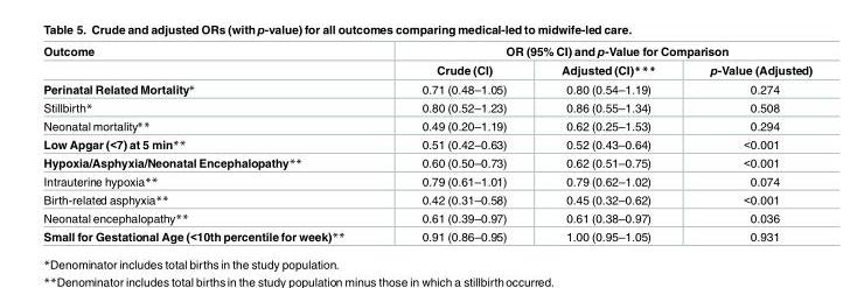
<table><thead><tr><td rowspan="2">Outcome</td><td colspan="3">OR (95% CI) and p-Value for Comparison</td></tr><tr><td>Crude (CI)</td><td>Adjusted (CI)***</td><td>p-Value (Adjusted)</td></tr></thead><tbody><tr><td>Perinatal Related Mortality*</td><td>0.71 (0.48–1.05)</td><td>0.80 (0.54–1.19)</td><td>0.274</td></tr><tr><td>Stillbirth*</td><td>0.80 (0.52–1.23)</td><td>0.86 (0.55–1.34)</td><td>0.508</td></tr><tr><td>Neonatal mortality**</td><td>0.49 (0.20–1.19)</td><td>0.62 (0.25–1.53)</td><td>0.294</td></tr><tr><td>Low Apgar (&lt;7) at 5 min**</td><td>0.51 (0.42–0.63)</td><td>0.52 (0.43–0.64)</td><td>&lt;0.001</td></tr><tr><td>Hypoxia/Asphyxia/Neonatal Encephalopathy**</td><td>0.60 (0.50–0.73)</td><td>0.62 (0.51–0.75)</td><td>&lt;0.001</td></tr><tr><td>Intrauterine hypoxia**</td><td>0.79 (0.61–1.01)</td><td>0.79 (0.62–1.02)</td><td>0.074</td></tr><tr><td>Birth-related asphyxia**</td><td>0.42 (0.31–0.58)</td><td>0.45 (0.32–0.62)</td><td>&lt;0.001</td></tr><tr><td>Neonatal encephalopathy**</td><td>0.61 (0.39–0.97)</td><td>0.61 (0.38–0.97)</td><td>0.036</td></tr><tr><td>Small for Gestational Age (&lt;10th percentile for week)**</td><td>0.91 (0.86–0.95)</td><td>1.00 (0.95–1.05)</td><td>0.931</td></tr></tbody></table>